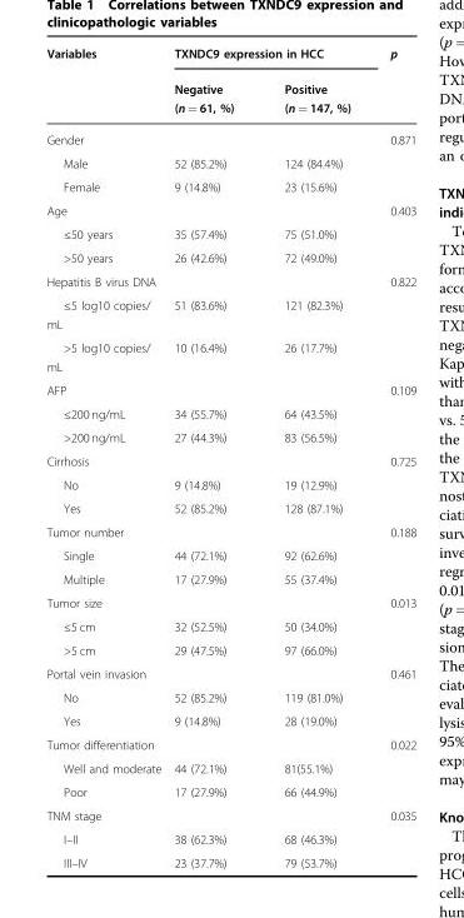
<table><thead><tr><td rowspan="2">Variables</td><td colspan="2">TXNDC9 expression in HCC</td><td rowspan="2">p</td></tr><tr><td>Negative (n = 61, %)</td><td>Positive (n = 147, %)</td></tr></thead><tbody><tr><td>Gender</td><td></td><td></td><td>0.871</td></tr><tr><td>Male</td><td>52 (85.2%)</td><td>124 (84.4%)</td><td></td></tr><tr><td>Female</td><td>9 (14.8%)</td><td>23 (15.6%)</td><td></td></tr><tr><td>Age</td><td></td><td></td><td>0.403</td></tr><tr><td>≤50 years</td><td>35 (57.4%)</td><td>75 (51.0%)</td><td></td></tr><tr><td>&gt;50 years</td><td>26 (42.6%)</td><td>72 (49.0%)</td><td></td></tr><tr><td>Hepatitis B virus DNA</td><td></td><td></td><td>0.822</td></tr><tr><td>≤5 log10 copies/ mL</td><td>51 (83.6%)</td><td>121 (82.3%)</td><td></td></tr><tr><td>&gt;5 log10 copies/ mL</td><td>10 (16.4%)</td><td>26 (17.7%)</td><td></td></tr><tr><td>AFP</td><td></td><td></td><td>0.109</td></tr><tr><td>≤200 ng/mL</td><td>34 (55.7%)</td><td>64 (43.5%)</td><td></td></tr><tr><td>&gt;200 ng/mL</td><td>27 (44.3%)</td><td>83 (56.5%)</td><td></td></tr><tr><td>Cirrhosis</td><td></td><td></td><td>0.725</td></tr><tr><td>No</td><td>9 (14.8%)</td><td>19 (12.9%)</td><td></td></tr><tr><td>Yes</td><td>52 (85.2%)</td><td>128 (87.1%)</td><td></td></tr><tr><td>Tumor number</td><td></td><td></td><td>0.188</td></tr><tr><td>Single</td><td>44 (72.1%)</td><td>92 (62.6%)</td><td></td></tr><tr><td>Multiple</td><td>17 (27.9%)</td><td>55 (37.4%)</td><td></td></tr><tr><td>Tumor size</td><td></td><td></td><td>0.013</td></tr><tr><td>≤5 cm</td><td>32 (52.5%)</td><td>50 (34.0%)</td><td></td></tr><tr><td>&gt;5 cm</td><td>29 (47.5%)</td><td>97 (66.0%)</td><td></td></tr><tr><td>Portal vein invasion</td><td></td><td></td><td>0.461</td></tr><tr><td>No</td><td>52 (85.2%)</td><td>119 (81.0%)</td><td></td></tr><tr><td>Yes</td><td>9 (14.8%)</td><td>28 (19.0%)</td><td></td></tr><tr><td>Tumor differentiation</td><td></td><td></td><td>0.022</td></tr><tr><td>Well and moderate</td><td>44 (72.1%)</td><td>81(55.1%)</td><td></td></tr><tr><td>Poor</td><td>17 (27.9%)</td><td>66 (44.9%)</td><td></td></tr><tr><td>TNM stage</td><td></td><td></td><td>0.035</td></tr><tr><td>I–II</td><td>38 (62.3%)</td><td>68 (46.3%)</td><td></td></tr><tr><td>III–IV</td><td>23 (37.7%)</td><td>79 (53.7%)</td><td></td></tr></tbody></table>